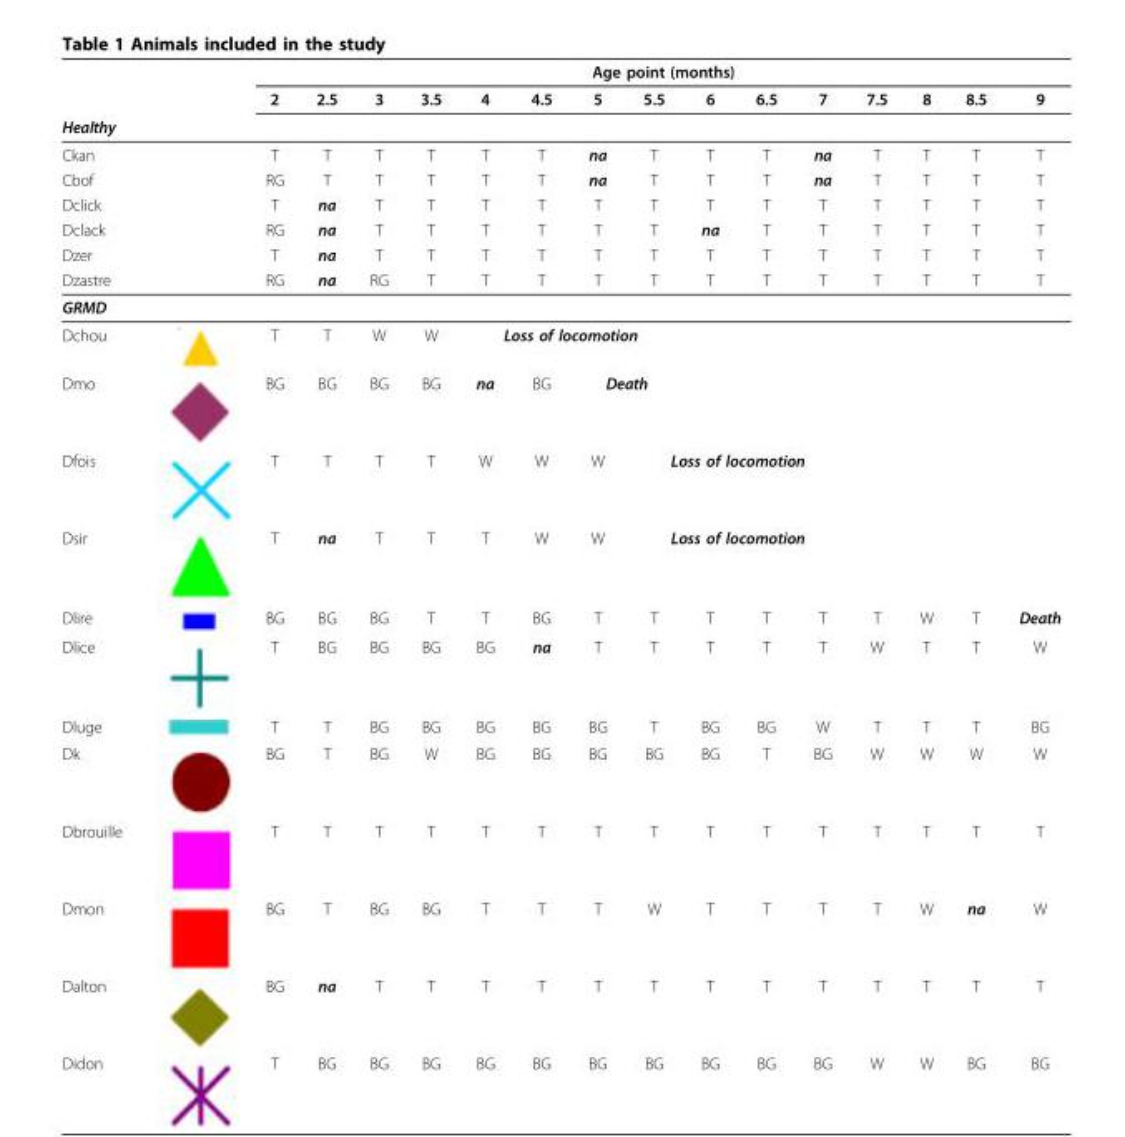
<table><thead><tr><td rowspan="3">Healthy</td><td colspan="15">Age point (months)</td></tr><tr><td rowspan="2">2</td><td rowspan="2">2.5</td><td rowspan="2">3</td><td rowspan="2">3.5</td><td rowspan="2">4</td><td rowspan="2">4.5</td><td rowspan="2">5</td><td rowspan="2">5.5</td><td rowspan="2">6</td><td rowspan="2">6.5</td><td rowspan="2">7</td><td rowspan="2">7.5</td><td rowspan="2">8</td><td rowspan="2">8.5</td><td rowspan="2">9</td></tr><tr></tr></thead><tbody><tr><td>Ckan</td><td>T</td><td>T</td><td>T</td><td>T</td><td>T</td><td>T</td><td>na</td><td>T</td><td>T</td><td>T</td><td>na</td><td>T</td><td>T</td><td>T</td><td>T</td></tr><tr><td>Cbof</td><td>RG</td><td>T</td><td>T</td><td>T</td><td>T</td><td>T</td><td>na</td><td>T</td><td>T</td><td>T</td><td>na</td><td>T</td><td>T</td><td>T</td><td>T</td></tr><tr><td>Dclick</td><td>T</td><td>na</td><td>T</td><td>T</td><td>T</td><td>T</td><td>T</td><td>T</td><td>T</td><td>T</td><td>T</td><td>T</td><td>T</td><td>T</td><td>T</td></tr><tr><td>Dclack</td><td>RG</td><td>na</td><td>T</td><td>T</td><td>T</td><td>T</td><td>T</td><td>T</td><td>na</td><td>T</td><td>T</td><td>T</td><td>T</td><td>T</td><td>T</td></tr><tr><td>Dzer</td><td>T</td><td>na</td><td>T</td><td>T</td><td>T</td><td>T</td><td>T</td><td>T</td><td>T</td><td>T</td><td>T</td><td>T</td><td>T</td><td>T</td><td>T</td></tr><tr><td>Dzastre</td><td>RG</td><td>na</td><td>RG</td><td>T</td><td>T</td><td>T</td><td>T</td><td>T</td><td>T</td><td>T</td><td>T</td><td>T</td><td>T</td><td>T</td><td>T</td></tr><tr><td colspan="16">GRMD</td></tr><tr><td>Dchou</td><td>T</td><td>T</td><td>W</td><td>W</td><td colspan="4">Loss of locomotion</td><td></td><td></td><td></td><td></td><td></td><td></td><td></td></tr><tr><td>Dmo</td><td>BG</td><td>BG</td><td>BG</td><td>BG</td><td>na</td><td>BG</td><td colspan="2">Death</td><td></td><td></td><td></td><td></td><td></td><td></td><td></td></tr><tr><td>Dfois</td><td>T</td><td>T</td><td>T</td><td>T</td><td>W</td><td>W</td><td>W</td><td colspan="4">Loss of locomotion</td><td></td><td></td><td></td><td></td></tr><tr><td>Dsir</td><td>T</td><td>na</td><td>T</td><td>T</td><td>T</td><td>W</td><td>W</td><td colspan="4">Loss of locomotion</td><td></td><td></td><td></td><td></td></tr><tr><td>Dlire</td><td>BG</td><td>BG</td><td>BG</td><td>T</td><td>T</td><td>BG</td><td>T</td><td>T</td><td>T</td><td>T</td><td>T</td><td>T</td><td>W</td><td>T</td><td>Death</td></tr><tr><td>Dlice</td><td>T</td><td>BG</td><td>BG</td><td>BG</td><td>BG</td><td>na</td><td>T</td><td>T</td><td>T</td><td>T</td><td>T</td><td>W</td><td>T</td><td>T</td><td>W</td></tr><tr><td>Dluge</td><td>T</td><td>T</td><td>BG</td><td>BG</td><td>BG</td><td>BG</td><td>BG</td><td>T</td><td>BG</td><td>BG</td><td>W</td><td>T</td><td>T</td><td>T</td><td>BG</td></tr><tr><td>Dk</td><td>BG</td><td>T</td><td>BG</td><td>W</td><td>BG</td><td>BG</td><td>BG</td><td>BG</td><td>BG</td><td>T</td><td>BG</td><td>W</td><td>W</td><td>W</td><td>W</td></tr><tr><td>Dbrouille</td><td>T</td><td>T</td><td>T</td><td>T</td><td>T</td><td>T</td><td>T</td><td>T</td><td>T</td><td>T</td><td>T</td><td>T</td><td>T</td><td>T</td><td>T</td></tr><tr><td>Dmon</td><td>BG</td><td>T</td><td>BG</td><td>BG</td><td>T</td><td>T</td><td>T</td><td>W</td><td>T</td><td>T</td><td>T</td><td>T</td><td>W</td><td>na</td><td>W</td></tr><tr><td>Dalton</td><td>BG</td><td>na</td><td>T</td><td>T</td><td>T</td><td>T</td><td>T</td><td>T</td><td>T</td><td>T</td><td>T</td><td>T</td><td>T</td><td>T</td><td>T</td></tr><tr><td>Didon</td><td>T</td><td>BG</td><td>BG</td><td>BG</td><td>BG</td><td>BG</td><td>BG</td><td>BG</td><td>BG</td><td>BG</td><td>BG</td><td>W</td><td>W</td><td>BG</td><td>BG</td></tr></tbody></table>